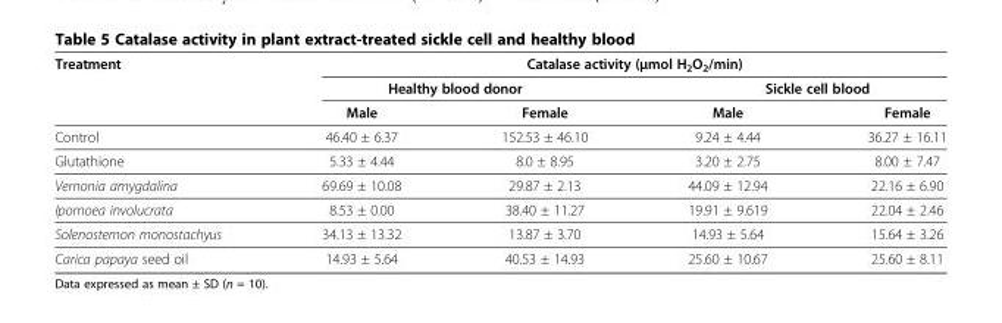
<table><thead><tr><td rowspan="3">Treatment</td><td colspan="4">Catalase activity (μmol H<sub>2</sub>O<sub>2</sub>/min)</td></tr><tr><td colspan="2">Healthy blood donor</td><td colspan="2">Sickle cell blood</td></tr><tr><td>Male</td><td>Female</td><td>Male</td><td>Female</td></tr></thead><tbody><tr><td>Control</td><td>46.40 ± 6.37</td><td>152.53 ± 46.10</td><td>9.24 ± 4.44</td><td>36.27 ± 16.11</td></tr><tr><td>Glutathione</td><td>5.33 ± 4.44</td><td>8.0 ± 8.95</td><td>3.20 ± 2.75</td><td>8.00 ± 7.47</td></tr><tr><td>Vernonia amygdalina</td><td>69.69 ± 10.08</td><td>29.87 ± 2.13</td><td>44.09 ± 12.94</td><td>22.16 ± 6.90</td></tr><tr><td>Ipomoea involucrata</td><td>8.53 ± 0.00</td><td>38.40 ± 11.27</td><td>19.91 ± 9.619</td><td>22.04 ± 2.46</td></tr><tr><td>Solenostemon monostachyus</td><td>34.13 ± 13.32</td><td>13.87 ± 3.70</td><td>14.93 ± 5.64</td><td>15.64 ± 3.26</td></tr><tr><td>Carica papaya seed oil</td><td>14.93 ± 5.64</td><td>40.53 ± 14.93</td><td>25.60 ± 10.67</td><td>25.60 ± 8.11</td></tr></tbody></table>